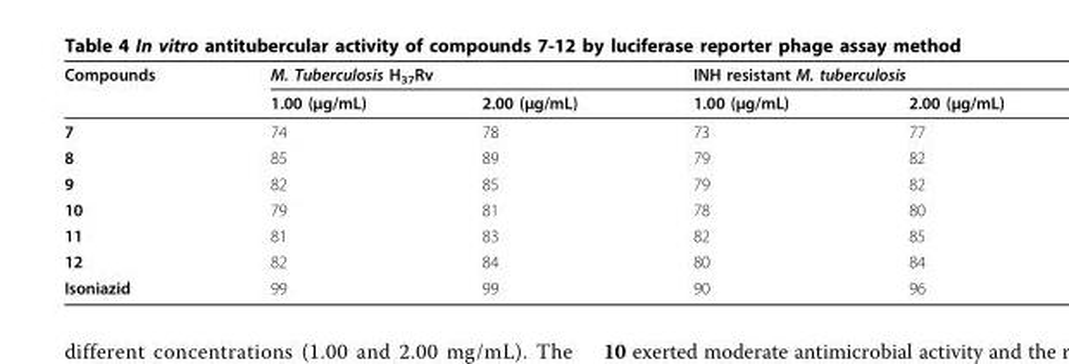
<table><thead><tr><td rowspan="2">Compounds</td><td colspan="2">M. Tuberculosis H<sub>37</sub>Rv</td><td colspan="2">INH resistant M. tuberculosis</td></tr><tr><td>1.00 (μg/mL)</td><td>2.00 (μg/mL)</td><td>1.00 (μg/mL)</td><td>2.00 (μg/mL)</td></tr></thead><tbody><tr><td>7</td><td>74</td><td>78</td><td>73</td><td>77</td></tr><tr><td>8</td><td>85</td><td>89</td><td>79</td><td>82</td></tr><tr><td>9</td><td>82</td><td>85</td><td>79</td><td>82</td></tr><tr><td>10</td><td>79</td><td>81</td><td>78</td><td>80</td></tr><tr><td>11</td><td>81</td><td>83</td><td>82</td><td>85</td></tr><tr><td>12</td><td>82</td><td>84</td><td>80</td><td>84</td></tr><tr><td>Isoniazid</td><td>99</td><td>99</td><td>90</td><td>96</td></tr></tbody></table>